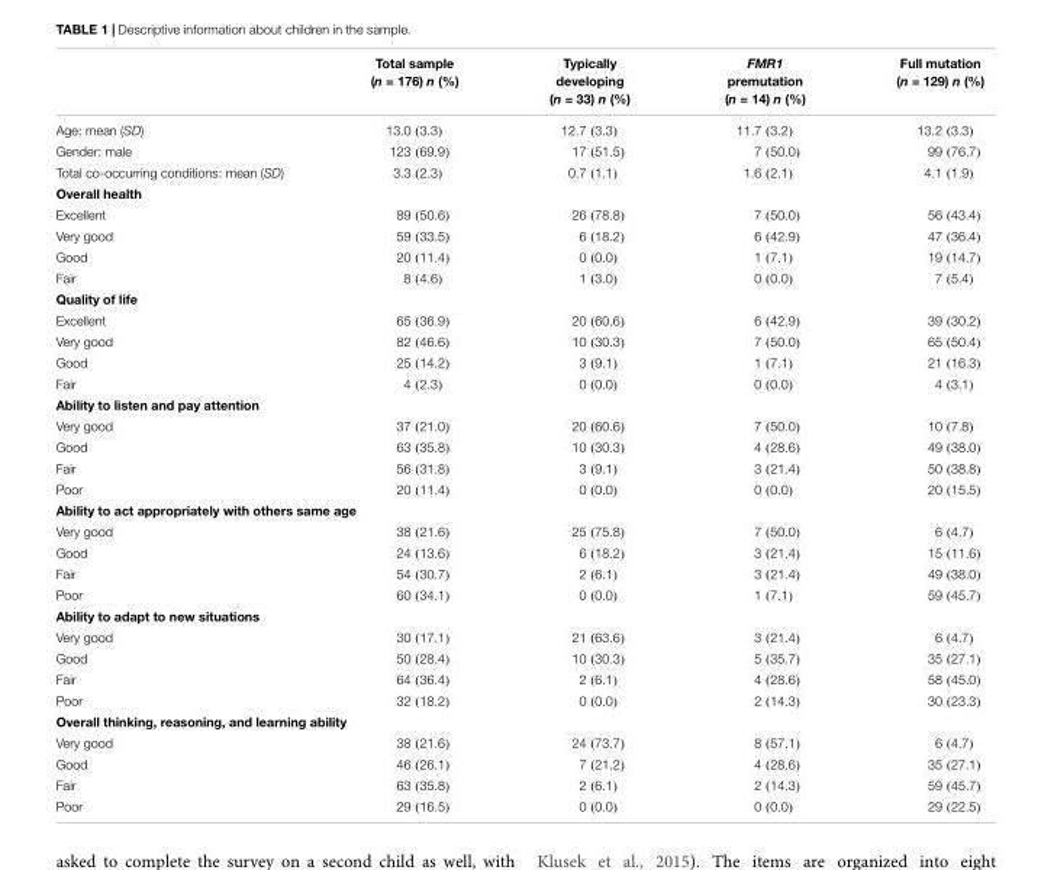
<table><thead><tr><td></td><td>Total sample (n = 176) n (%)</td><td>Typically developing (n = 33) n (%)</td><td>FMR1 premutation (n = 14) n (%)</td><td>Full mutation (n = 129) n (%)</td></tr></thead><tbody><tr><td>Age: mean (SD)</td><td>13.0 (3.3)</td><td>12.7 (3.3)</td><td>11.7 (3.2)</td><td>13.2 (3.3)</td></tr><tr><td>Gender: male</td><td>123 (69.9)</td><td>17 (51.5)</td><td>7 (50.0)</td><td>99 (76.7)</td></tr><tr><td>Total co-occurring conditions: mean (SD)</td><td>3.3 (2.3)</td><td>0.7 (1.1)</td><td>1.6 (2.1)</td><td>4.1 (1.9)</td></tr><tr><td colspan="5">Overall health</td></tr><tr><td>Excellent</td><td>89 (50.6)</td><td>26 (78.8)</td><td>7 (50.0)</td><td>56 (43.4)</td></tr><tr><td>Very good</td><td>59 (33.5)</td><td>6 (18.2)</td><td>6 (42.9)</td><td>47 (36.4)</td></tr><tr><td>Good</td><td>20 (11.4)</td><td>0 (0.0)</td><td>1 (7.1)</td><td>19 (14.7)</td></tr><tr><td>Fair</td><td>8 (4.6)</td><td>1 (3.0)</td><td>0 (0.0)</td><td>7 (5.4)</td></tr><tr><td colspan="5">Quality of life</td></tr><tr><td>Excellent</td><td>65 (36.9)</td><td>20 (60.6)</td><td>6 (42.9)</td><td>39 (30.2)</td></tr><tr><td>Very good</td><td>82 (46.6)</td><td>10 (30.3)</td><td>7 (50.0)</td><td>65 (50.4)</td></tr><tr><td>Good</td><td>25 (14.2)</td><td>3 (9.1)</td><td>1 (7.1)</td><td>21 (16.3)</td></tr><tr><td>Fair</td><td>4 (2.3)</td><td>0 (0.0)</td><td>0 (0.0)</td><td>4 (3.1)</td></tr><tr><td colspan="5">Ability to listen and pay attention</td></tr><tr><td>Very good</td><td>37 (21.0)</td><td>20 (60.6)</td><td>7 (50.0)</td><td>10 (7.8)</td></tr><tr><td>Good</td><td>63 (35.8)</td><td>10 (30.3)</td><td>4 (28.6)</td><td>49 (38.0)</td></tr><tr><td>Fair</td><td>56 (31.8)</td><td>3 (9.1)</td><td>3 (21.4)</td><td>50 (38.8)</td></tr><tr><td>Poor</td><td>20 (11.4)</td><td>0 (0.0)</td><td>0 (0.0)</td><td>20 (15.5)</td></tr><tr><td colspan="5">Ability to act appropriately with others same age</td></tr><tr><td>Very good</td><td>38 (21.6)</td><td>25 (75.8)</td><td>7 (50.0)</td><td>6 (4.7)</td></tr><tr><td>Good</td><td>24 (13.6)</td><td>6 (18.2)</td><td>3 (21.4)</td><td>15 (11.6)</td></tr><tr><td>Fair</td><td>54 (30.7)</td><td>2 (6.1)</td><td>3 (21.4)</td><td>49 (38.0)</td></tr><tr><td>Poor</td><td>60 (34.1)</td><td>0 (0.0)</td><td>1 (7.1)</td><td>59 (45.7)</td></tr><tr><td colspan="5">Ability to adapt to new situations</td></tr><tr><td>Very good</td><td>30 (17.1)</td><td>21 (63.6)</td><td>3 (21.4)</td><td>6 (4.7)</td></tr><tr><td>Good</td><td>50 (28.4)</td><td>10 (30.3)</td><td>5 (35.7)</td><td>35 (27.1)</td></tr><tr><td>Fair</td><td>64 (36.4)</td><td>2 (6.1)</td><td>4 (28.6)</td><td>58 (45.0)</td></tr><tr><td>Poor</td><td>32 (18.2)</td><td>0 (0.0)</td><td>2 (14.3)</td><td>30 (23.3)</td></tr><tr><td colspan="5">Overall thinking, reasoning, and learning ability</td></tr><tr><td>Very good</td><td>38 (21.6)</td><td>24 (73.7)</td><td>8 (57.1)</td><td>6 (4.7)</td></tr><tr><td>Good</td><td>46 (26.1)</td><td>7 (21.2)</td><td>4 (28.6)</td><td>35 (27.1)</td></tr><tr><td>Fair</td><td>63 (35.8)</td><td>2 (6.1)</td><td>2 (14.3)</td><td>59 (45.7)</td></tr><tr><td>Poor</td><td>29 (16.5)</td><td>0 (0.0)</td><td>0 (0.0)</td><td>29 (22.5)</td></tr></tbody></table>